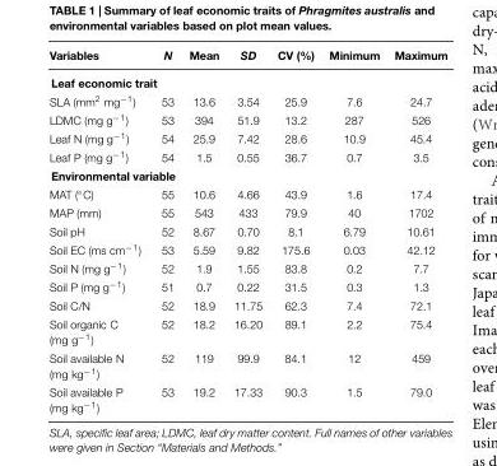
<table><thead><tr><td>Variables</td><td>N</td><td>Mean</td><td>SD</td><td>CV (%)</td><td>Minimum</td><td>Maximum</td></tr></thead><tbody><tr><td colspan="7">Leaf economic trait</td></tr><tr><td>SLA (mm<sup>2</sup> mg<sup>−1</sup>)</td><td>53</td><td>13.6</td><td>3.54</td><td>25.9</td><td>7.6</td><td>24.7</td></tr><tr><td>LDMC (mg g<sup>−1</sup>)</td><td>53</td><td>394</td><td>51.9</td><td>13.2</td><td>287</td><td>526</td></tr><tr><td>Leaf N (mg g<sup>−1</sup>)</td><td>54</td><td>25.9</td><td>7.42</td><td>28.6</td><td>10.9</td><td>45.4</td></tr><tr><td>Leaf P (mg g<sup>−1</sup>)</td><td>54</td><td>1.5</td><td>0.55</td><td>36.7</td><td>0.7</td><td>3.5</td></tr><tr><td colspan="7">Environmental variable</td></tr><tr><td>MAT (◦C)</td><td>55</td><td>10.6</td><td>4.66</td><td>43.9</td><td>1.6</td><td>17.4</td></tr><tr><td>MAP (mm)</td><td>55</td><td>543</td><td>433</td><td>79.9</td><td>40</td><td>1702</td></tr><tr><td>Soil pH</td><td>52</td><td>8.67</td><td>0.70</td><td>8.1</td><td>6.79</td><td>10.61</td></tr><tr><td>Soil EC (ms cm<sup>−1</sup>)</td><td>53</td><td>5.59</td><td>9.82</td><td>175.6</td><td>0.03</td><td>42.12</td></tr><tr><td>Soil N (mg g<sup>−1</sup>)</td><td>52</td><td>1.9</td><td>1.55</td><td>83.8</td><td>0.2</td><td>7.7</td></tr><tr><td>Soil P (mg g<sup>−1</sup>)</td><td>51</td><td>0.7</td><td>0.22</td><td>31.5</td><td>0.3</td><td>1.3</td></tr><tr><td>Soil C/N</td><td>52</td><td>18.9</td><td>11.75</td><td>62.3</td><td>7.4</td><td>72.1</td></tr><tr><td>Soil organic C (mg g<sup>−1</sup>)</td><td>52</td><td>18.2</td><td>16.20</td><td>89.1</td><td>2.2</td><td>75.4</td></tr><tr><td>Soil available N (mg kg<sup>−1</sup>)</td><td>52</td><td>119</td><td>99.9</td><td>84.1</td><td>12</td><td>459</td></tr><tr><td>Soil available P (mg kg<sup>−1</sup>)</td><td>53</td><td>19.2</td><td>17.33</td><td>90.3</td><td>1.5</td><td>79.0</td></tr></tbody></table>